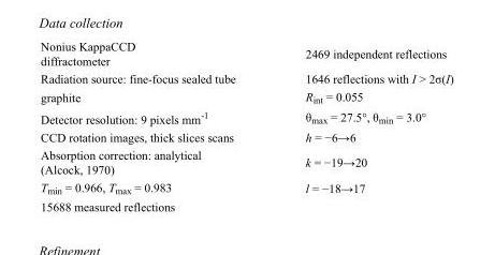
<table><tbody><tr><td>Nonius KappaCCD diffractometer</td><td>2469 independent reflections</td></tr><tr><td>Radiation source: fine-focus sealed tube</td><td>1646 reflections with I &gt; 2σ(I)</td></tr><tr><td>graphite</td><td>R<sub>int</sub> = 0.055</td></tr><tr><td>Detector resolution: 9 pixels mm<sup>-1</sup></td><td>θ<sub>max</sub> = 27.5°, θ<sub>min</sub> = 3.0°</td></tr><tr><td>CCD rotation images, thick slices scans</td><td>h = −6→6</td></tr><tr><td>Absorption correction: analytical (Alcock, 1970)</td><td>k = −19→20</td></tr><tr><td>T<sub>min</sub> = 0.966, T<sub>max</sub> = 0.983</td><td>l = −18→17</td></tr><tr><td>15688 measured reflections</td><td></td></tr></tbody></table>